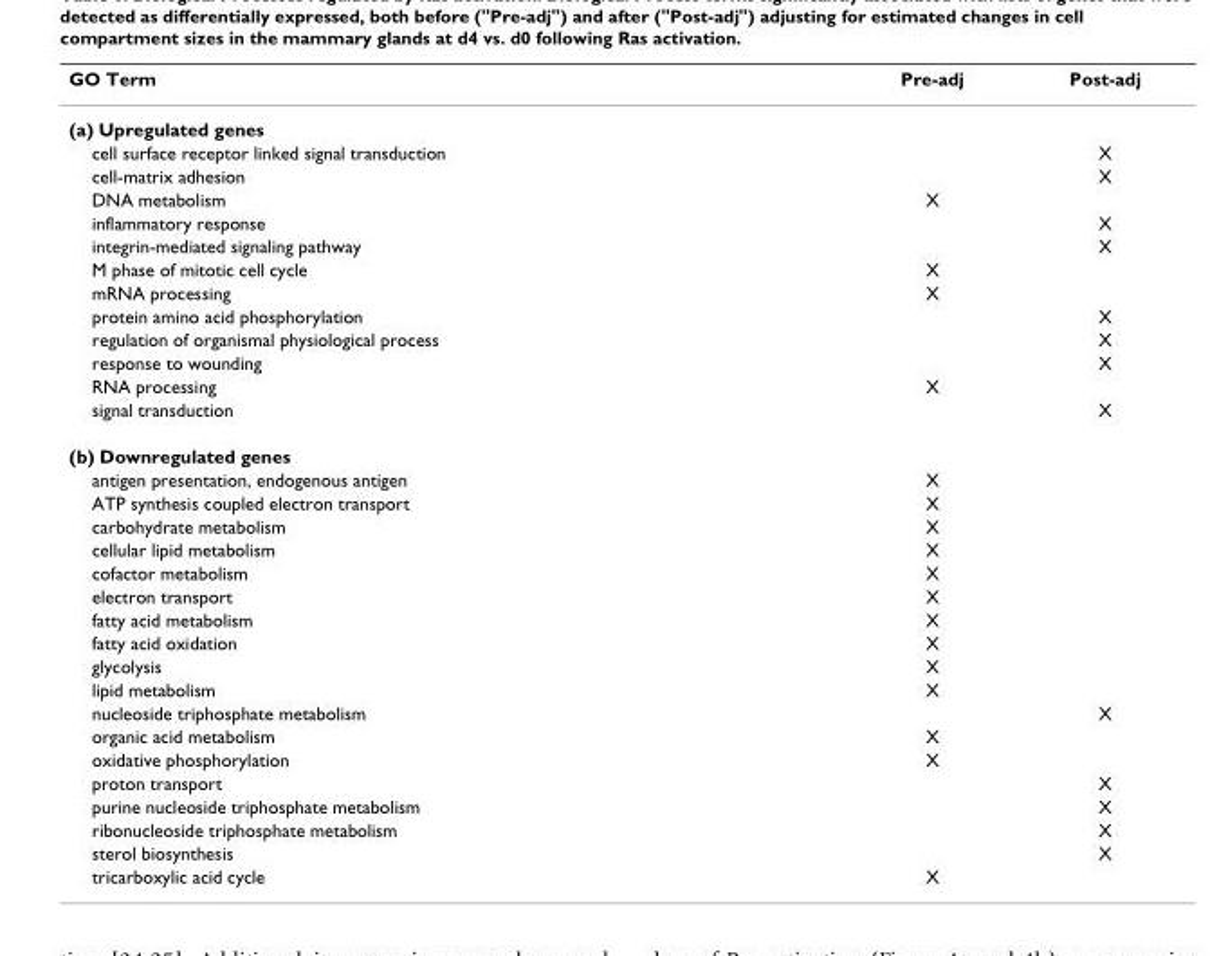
<table><thead><tr><td>GO Term</td><td>Pre-adj</td><td>Post-adj</td></tr></thead><tbody><tr><td colspan="3">(a) Upregulated genes</td></tr><tr><td>cell surface receptor linked signal transduction</td><td></td><td>X</td></tr><tr><td>cell-matrix adhesion</td><td></td><td>X</td></tr><tr><td>DNA metabolism</td><td>X</td><td></td></tr><tr><td>inflammatory response</td><td></td><td>X</td></tr><tr><td>integrin-mediated signaling pathway</td><td></td><td>X</td></tr><tr><td>M phase of mitotic cell cycle</td><td>X</td><td></td></tr><tr><td>mRNA processing</td><td>X</td><td></td></tr><tr><td>protein amino acid phosphorylation</td><td></td><td>X</td></tr><tr><td>regulation of organismal physiological process</td><td></td><td>X</td></tr><tr><td>response to wounding</td><td></td><td>X</td></tr><tr><td>RNA processing</td><td>X</td><td></td></tr><tr><td>signal transduction</td><td></td><td>X</td></tr><tr><td colspan="3">(b) Downregulated genes</td></tr><tr><td>antigen presentation, endogenous antigen</td><td>X</td><td></td></tr><tr><td>ATP synthesis coupled electron transport</td><td>X</td><td></td></tr><tr><td>carbohydrate metabolism</td><td>X</td><td></td></tr><tr><td>cellular lipid metabolism</td><td>X</td><td></td></tr><tr><td>cofactor metabolism</td><td>X</td><td></td></tr><tr><td>electron transport</td><td>X</td><td></td></tr><tr><td>fatty acid metabolism</td><td>X</td><td></td></tr><tr><td>fatty acid oxidation</td><td>X</td><td></td></tr><tr><td>glycolysis</td><td>X</td><td></td></tr><tr><td>lipid metabolism</td><td>X</td><td></td></tr><tr><td>nucleoside triphosphate metabolism</td><td></td><td>X</td></tr><tr><td>organic acid metabolism</td><td>X</td><td></td></tr><tr><td>oxidative phosphorylation</td><td>X</td><td></td></tr><tr><td>proton transport</td><td></td><td>X</td></tr><tr><td>purine nucleoside triphosphate metabolism</td><td></td><td>X</td></tr><tr><td>ribonucleoside triphosphate metabolism</td><td></td><td>X</td></tr><tr><td>sterol biosynthesis</td><td></td><td>X</td></tr><tr><td>tricarboxylic acid cycle</td><td>X</td><td></td></tr></tbody></table>